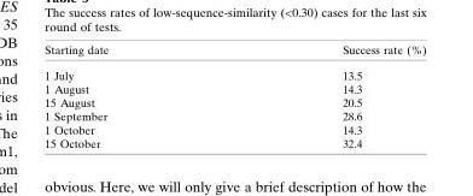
<table><thead><tr><td>Starting date</td><td>Success rate (%)</td></tr></thead><tbody><tr><td>1 July</td><td>13.5</td></tr><tr><td>1 August</td><td>14.3</td></tr><tr><td>15 August</td><td>20.5</td></tr><tr><td>1 September</td><td>28.6</td></tr><tr><td>1 October</td><td>14.3</td></tr><tr><td>15 October</td><td>32.4</td></tr></tbody></table>